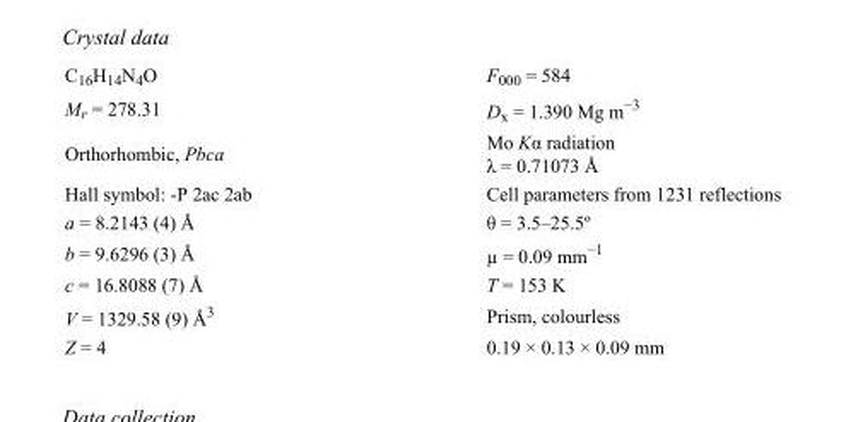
<table><tbody><tr><td>C<sub>16</sub>H<sub>14</sub>N<sub>4</sub>O</td><td>F000 = 584</td></tr><tr><td>M<sub>r</sub> = 278.31</td><td>D<sub>x</sub> = 1.390 Mg m<sup>−3</sup></td></tr><tr><td>Orthorhombic, Pbca</td><td>Mo Kα radiation λ = 0.71073 Å</td></tr><tr><td>Hall symbol: -P 2ac 2ab</td><td>Cell parameters from 1231 reflections</td></tr><tr><td>a = 8.2143 (4) Å</td><td>θ = 3.5–25.5º</td></tr><tr><td>b = 9.6296 (3) Å</td><td>µ = 0.09 mm<sup>−1</sup></td></tr><tr><td>c = 16.8088 (7) Å</td><td>T = 153 K</td></tr><tr><td>V = 1329.58 (9) Å<sup>3</sup></td><td>Prism, colourless</td></tr><tr><td>Z = 4</td><td>0.19 × 0.13 × 0.09 mm</td></tr></tbody></table>